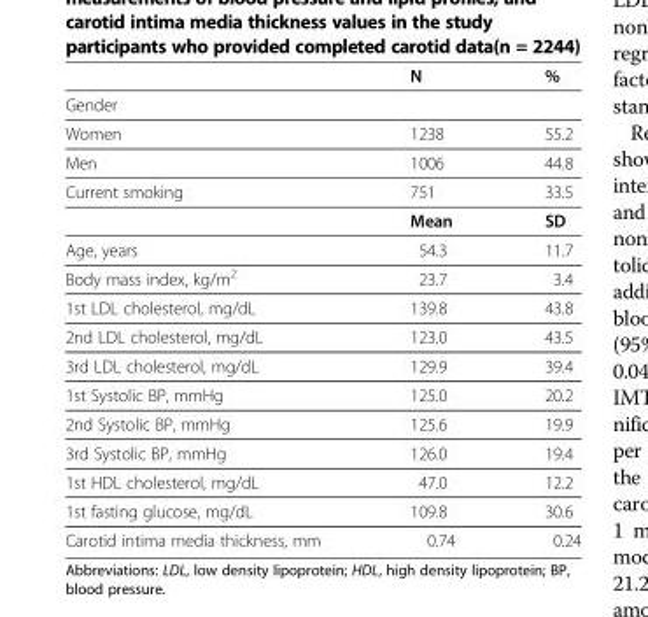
<table><thead><tr><td></td><td>N</td><td>%</td></tr></thead><tbody><tr><td colspan="3">Gender</td></tr><tr><td>Women</td><td>1238</td><td>55.2</td></tr><tr><td>Men</td><td>1006</td><td>44.8</td></tr><tr><td rowspan="2">Current smoking</td><td>751</td><td>33.5</td></tr><tr><td>Mean</td><td>SD</td></tr><tr><td>Age, years</td><td>54.3</td><td>11.7</td></tr><tr><td>Body mass index, kg/m<sup>2</sup></td><td>23.7</td><td>3.4</td></tr><tr><td>1st LDL cholesterol, mg/dL</td><td>139.8</td><td>43.8</td></tr><tr><td>2nd LDL cholesterol, mg/dL</td><td>123.0</td><td>43.5</td></tr><tr><td>3rd LDL cholesterol, mg/dL</td><td>129.9</td><td>39.4</td></tr><tr><td>1st Systolic BP, mmHg</td><td>125.0</td><td>20.2</td></tr><tr><td>2nd Systolic BP, mmHg</td><td>125.6</td><td>19.9</td></tr><tr><td>3rd Systolic BP, mmHg</td><td>126.0</td><td>19.4</td></tr><tr><td>1st HDL cholesterol, mg/dL</td><td>47.0</td><td>12.2</td></tr><tr><td>1st fasting glucose, mg/dL</td><td>109.8</td><td>30.6</td></tr><tr><td>Carotid intima media thickness, mm</td><td>0.74</td><td>0.24</td></tr></tbody></table>